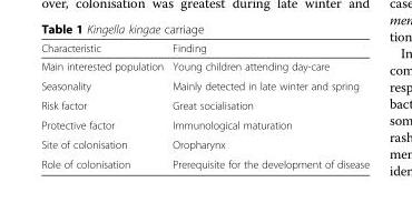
<table><thead><tr><td>Characteristic</td><td>Finding</td></tr></thead><tbody><tr><td>Main interested population</td><td>Young children attending day-care</td></tr><tr><td>Seasonality</td><td>Mainly detected in late winter and spring</td></tr><tr><td>Risk factor</td><td>Great socialisation</td></tr><tr><td>Protective factor</td><td>Immunological maturation</td></tr><tr><td>Site of colonisation</td><td>Oropharynx</td></tr><tr><td>Role of colonisation</td><td>Prerequisite for the development of disease</td></tr></tbody></table>